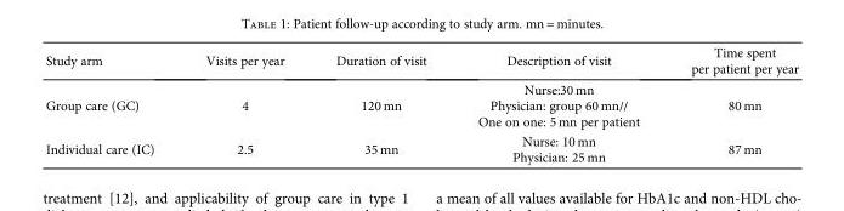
<table><thead><tr><td>Study arm</td><td>Visits per year</td><td>Duration of visit</td><td>Description of visit</td><td>Time spent per patient per year</td></tr></thead><tbody><tr><td>Group care (GC)</td><td>4</td><td>120 mn</td><td>Nurse:30 mn Physician: group 60 mn// One on one: 5 mn per patient</td><td>80 mn</td></tr><tr><td>Individual care (IC)</td><td>2.5</td><td>35 mn</td><td>Nurse: 10 mn Physician: 25 mn</td><td>87 mn</td></tr></tbody></table>